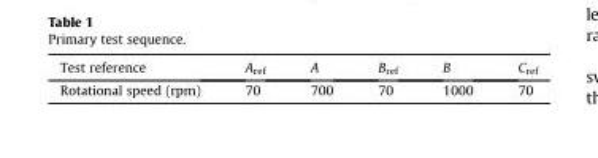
<table><thead><tr><td>Test reference</td><td>A<sub>ref</sub></td><td>A</td><td>B<sub>ref</sub></td><td>B</td><td>C<sub>ref</sub></td></tr></thead><tbody><tr><td>Rotational speed (rpm)</td><td>70</td><td>700</td><td>70</td><td>1000</td><td>70</td></tr></tbody></table>